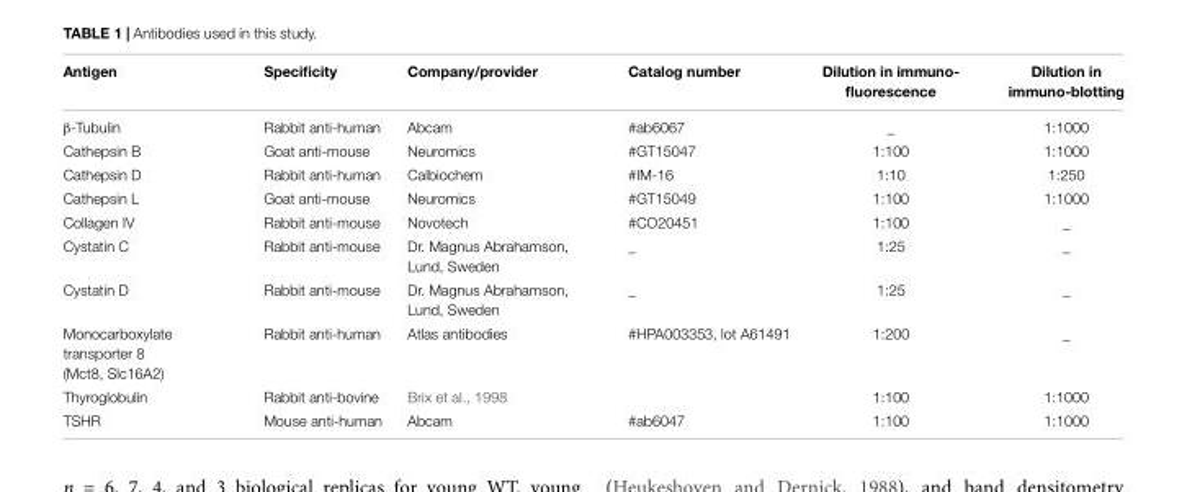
<table><thead><tr><td>Antigen</td><td>Specificity</td><td>Company/provider</td><td>Catalog number</td><td>Dilution in immuno- fluorescence</td><td>Dilution in immuno-blotting</td></tr></thead><tbody><tr><td>β-Tubulin</td><td>Rabbit anti-human</td><td>Abcam</td><td>#ab6067</td><td>_</td><td>1:1000</td></tr><tr><td>Cathepsin B</td><td>Goat anti-mouse</td><td>Neuromics</td><td>#GT15047</td><td>1:100</td><td>1:1000</td></tr><tr><td>Cathepsin D</td><td>Rabbit anti-human</td><td>Calbiochem</td><td>#IM-16</td><td>1:10</td><td>1:250</td></tr><tr><td>Cathepsin L</td><td>Goat anti-mouse</td><td>Neuromics</td><td>#GT15049</td><td>1:100</td><td>1:1000</td></tr><tr><td>Collagen IV</td><td>Rabbit anti-mouse</td><td>Novotech</td><td>#CO20451</td><td>1:100</td><td>_</td></tr><tr><td>Cystatin C</td><td>Rabbit anti-mouse</td><td>Dr. Magnus Abrahamson, Lund, Sweden</td><td>_</td><td>1:25</td><td>_</td></tr><tr><td>Cystatin D</td><td>Rabbit anti-mouse</td><td>Dr. Magnus Abrahamson, Lund, Sweden</td><td>_</td><td>1:25</td><td>_</td></tr><tr><td>Monocarboxylate transporter 8 (Mct8, Slc16A2)</td><td>Rabbit anti-human</td><td>Atlas antibodies</td><td>#HPA003353, lot A61491</td><td>1:200</td><td>_</td></tr><tr><td>Thyroglobulin</td><td>Rabbit anti-bovine</td><td>Brix et al., 1998</td><td></td><td>1:100</td><td>1:1000</td></tr><tr><td>TSHR</td><td>Mouse anti-human</td><td>Abcam</td><td>#ab6047</td><td>1:100</td><td>1:1000</td></tr></tbody></table>